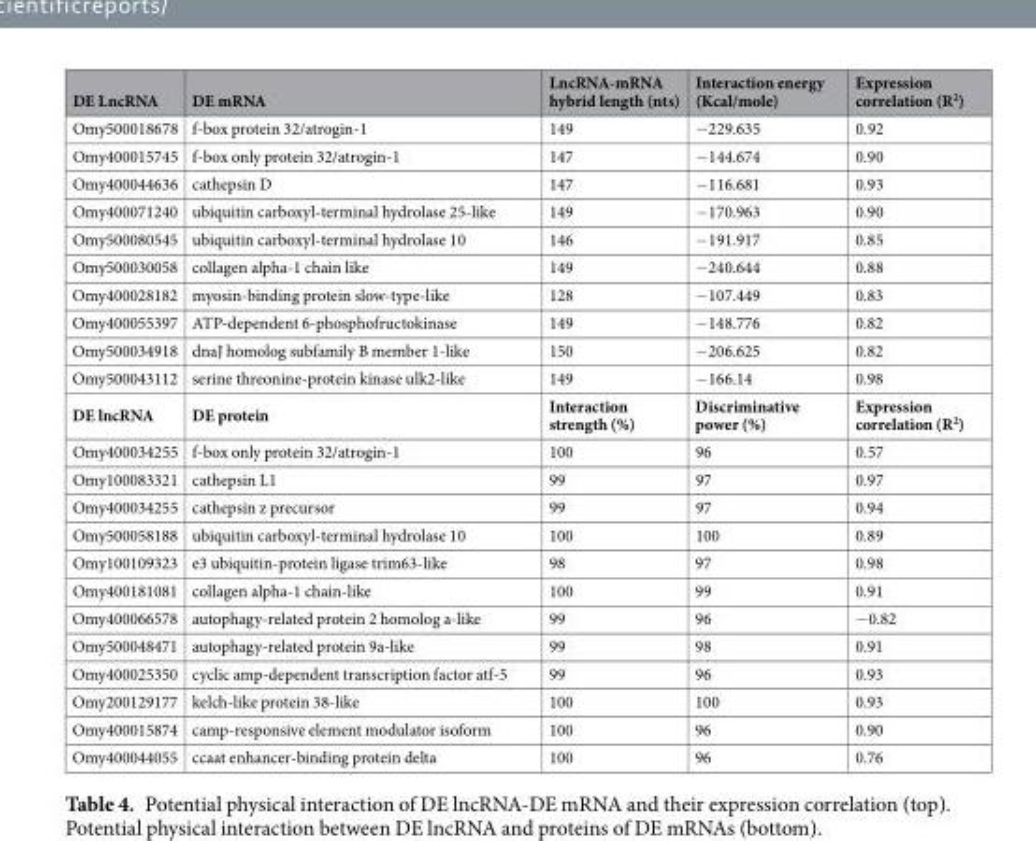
<table><thead><tr><td>DE LncRNA</td><td>DE mRNA</td><td>LncRNA-mRNA hybrid length (nts)</td><td>Interaction energy (Kcal/mole)</td><td>Expression correlation (R<sup>2</sup>)</td></tr></thead><tbody><tr><td>Omy500018678</td><td>f-box protein 32/atrogin-1</td><td>149</td><td>−229.635</td><td>0.92</td></tr><tr><td>Omy400015745</td><td>f-box only protein 32/atrogin-1</td><td>147</td><td>−144.674</td><td>0.90</td></tr><tr><td>Omy400044636</td><td>cathepsin D</td><td>147</td><td>−116.681</td><td>0.93</td></tr><tr><td>Omy400071240</td><td>ubiquitin carboxyl-terminal hydrolase 25-like</td><td>149</td><td>−170.963</td><td>0.90</td></tr><tr><td>Omy500080545</td><td>ubiquitin carboxyl-terminal hydrolase 10</td><td>146</td><td>−191.917</td><td>0.85</td></tr><tr><td>Omy500030058</td><td>collagen alpha-1 chain like</td><td>149</td><td>−240.644</td><td>0.88</td></tr><tr><td>Omy400028182</td><td>myosin-binding protein slow-type-like</td><td>128</td><td>−107.449</td><td>0.83</td></tr><tr><td>Omy400055397</td><td>ATP-dependent 6-phosphofructokinase</td><td>149</td><td>−148.776</td><td>0.82</td></tr><tr><td>Omy500034918</td><td>dnaJ homolog subfamily B member 1-like</td><td>150</td><td>−206.625</td><td>0.82</td></tr><tr><td>Omy500043112</td><td>serine threonine-protein kinase ulk2-like</td><td>149</td><td>−166.14</td><td>0.98</td></tr><tr><td>DE lncRNA</td><td>DE protein</td><td>Interaction strength (%)</td><td>Discriminative power (%)</td><td>Expression correlation (R<sup>2</sup>)</td></tr><tr><td>Omy400034255</td><td>f-box only protein 32/atrogin-1</td><td>100</td><td>96</td><td>0.57</td></tr><tr><td>Omy100083321</td><td>cathepsin L1</td><td>99</td><td>97</td><td>0.97</td></tr><tr><td>Omy400034255</td><td>cathepsin z precursor</td><td>99</td><td>97</td><td>0.94</td></tr><tr><td>Omy500058188</td><td>ubiquitin carboxyl-terminal hydrolase 10</td><td>100</td><td>100</td><td>0.89</td></tr><tr><td>Omy100109323</td><td>e3 ubiquitin-protein ligase trim63-like</td><td>98</td><td>97</td><td>0.98</td></tr><tr><td>Omy400181081</td><td>collagen alpha-1 chain-like</td><td>100</td><td>99</td><td>0.91</td></tr><tr><td>Omy400066578</td><td>autophagy-related protein 2 homolog a-like</td><td>99</td><td>96</td><td>−0.82</td></tr><tr><td>Omy500048471</td><td>autophagy-related protein 9a-like</td><td>99</td><td>98</td><td>0.91</td></tr><tr><td>Omy400025350</td><td>cyclic amp-dependent transcription factor atf-5</td><td>99</td><td>96</td><td>0.93</td></tr><tr><td>Omy200129177</td><td>kelch-like protein 38-like</td><td>100</td><td>100</td><td>0.93</td></tr><tr><td>Omy400015874</td><td>camp-responsive element modulator isoform</td><td>100</td><td>96</td><td>0.90</td></tr><tr><td>Omy400044055</td><td>ccaat enhancer-binding protein delta</td><td>100</td><td>96</td><td>0.76</td></tr></tbody></table>